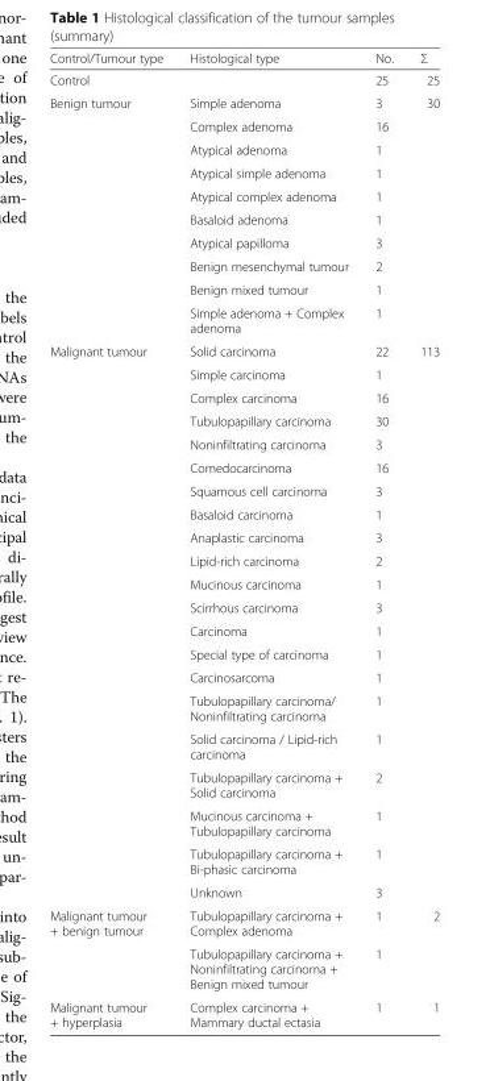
<table><thead><tr><td>Control/Tumour type</td><td>Histological type</td><td>No.</td><td>Σ</td></tr></thead><tbody><tr><td>Control</td><td></td><td>25</td><td>25</td></tr><tr><td rowspan="10">Benign tumour</td><td>Simple adenoma</td><td>3</td><td rowspan="10">30</td></tr><tr><td>Complex adenoma</td><td>16</td></tr><tr><td>Atypical adenoma</td><td>1</td></tr><tr><td>Atypical simple adenoma</td><td>1</td></tr><tr><td>Atypical complex adenoma</td><td>1</td></tr><tr><td>Basaloid adenoma</td><td>1</td></tr><tr><td>Atypical papilloma</td><td>3</td></tr><tr><td>Benign mesenchymal tumour</td><td>2</td></tr><tr><td>Benign mixed tumour</td><td>1</td></tr><tr><td>Simple adenoma + Complex adenoma</td><td>1</td></tr><tr><td rowspan="21">Malignant tumour</td><td>Solid carcinoma</td><td>22</td><td rowspan="21">113</td></tr><tr><td>Simple carcinoma</td><td>1</td></tr><tr><td>Complex carcinoma</td><td>16</td></tr><tr><td>Tubulopapillary carcinoma</td><td>30</td></tr><tr><td>Noninfiltrating carcinoma</td><td>3</td></tr><tr><td>Comedocarcinoma</td><td>16</td></tr><tr><td>Squamous cell carcinoma</td><td>3</td></tr><tr><td>Basaloid carcinoma</td><td>1</td></tr><tr><td>Anaplastic carcinoma</td><td>3</td></tr><tr><td>Lipid-rich carcinoma</td><td>2</td></tr><tr><td>Mucinous carcinoma</td><td>1</td></tr><tr><td>Scirrhous carcinoma</td><td>3</td></tr><tr><td>Carcinoma</td><td>1</td></tr><tr><td>Special type of carcinoma</td><td>1</td></tr><tr><td>Carcinosarcoma</td><td>1</td></tr><tr><td>Tubulopapillary carcinoma/ Noninfiltrating carcinoma</td><td>1</td></tr><tr><td>Solid carcinoma / Lipid-rich carcinoma</td><td>1</td></tr><tr><td>Tubulopapillary carcinoma + Solid carcinoma</td><td>2</td></tr><tr><td>Mucinous carcinoma + Tubulopapillary carcinoma</td><td>1</td></tr><tr><td>Tubulopapillary carcinoma + Bi-phasic carcinoma</td><td>1</td></tr><tr><td>Unknown</td><td>3</td></tr><tr><td rowspan="2">Malignant tumour + benign tumour</td><td>Tubulopapillary carcinoma + Complex adenoma</td><td>1</td><td rowspan="2">2</td></tr><tr><td>Tubulopapillary carcinoma + Noninfiltrating carcinoma + Benign mixed tumour</td><td>1</td></tr><tr><td>Malignant tumour + hyperplasia</td><td>Complex carcinoma + Mammary ductal ectasia</td><td>1</td><td>1</td></tr></tbody></table>